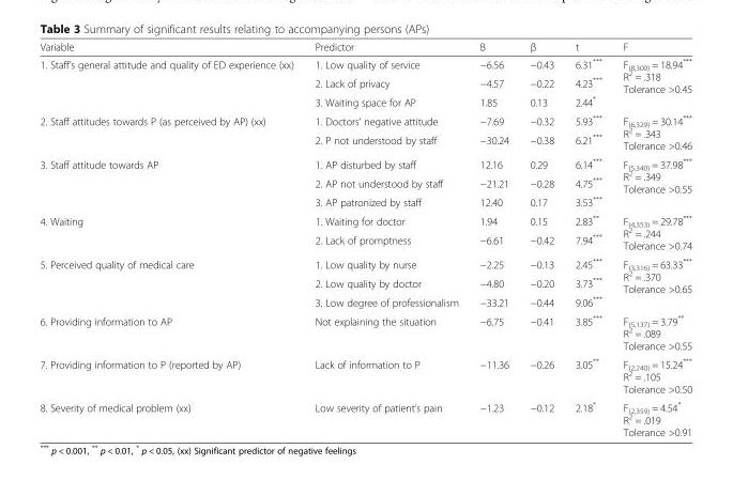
<table><thead><tr><td>Variable</td><td>Predictor</td><td>B</td><td>β</td><td>t</td><td>F</td></tr></thead><tbody><tr><td rowspan="3">1. Staff’s general attitude and quality of ED experience (xx)</td><td>1. Low quality of service</td><td>−6.56</td><td>−0.43</td><td>6.31***</td><td rowspan="3">F<sub>(8,300)</sub> = 18.94*** R<sup>2</sup> = .318 Tolerance &gt;0.45</td></tr><tr><td>2. Lack of privacy</td><td>−4.57</td><td>−0.22</td><td>4.23***</td></tr><tr><td>3. Waiting space for AP</td><td>1.85</td><td>0.13</td><td>2.44*</td></tr><tr><td rowspan="2">2. Staff attitudes towards P (as perceived by AP) (xx)</td><td>1. Doctors’ negative attitude</td><td>−7.69</td><td>−0.32</td><td>5.93***</td><td rowspan="2">F<sub>(6,329)</sub> = 30.14*** R<sup>2</sup> = .343 Tolerance &gt;0.46</td></tr><tr><td>2. P not understood by staff</td><td>−30.24</td><td>−0.38</td><td>6.21***</td></tr><tr><td rowspan="3">3. Staff attitude towards AP</td><td>1. AP disturbed by staff</td><td>12.16</td><td>0.29</td><td>6.14***</td><td rowspan="3">F<sub>(5,340)</sub> = 37.98*** R<sup>2</sup> = .349 Tolerance &gt;0.55</td></tr><tr><td>2. AP not understood by staff</td><td>−21.21</td><td>−0.28</td><td>4.75***</td></tr><tr><td>3. AP patronized by staff</td><td>12.40</td><td>0.17</td><td>3.53***</td></tr><tr><td rowspan="2">4. Waiting</td><td>1. Waiting for doctor</td><td>1.94</td><td>0.15</td><td>2.83**</td><td rowspan="2">F<sub>(4,353)</sub> = 29.78*** R<sup>2</sup> = .244 Tolerance &gt;0.74</td></tr><tr><td>2. Lack of promptness</td><td>−6.61</td><td>−0.42</td><td>7.94***</td></tr><tr><td rowspan="3">5. Perceived quality of medical care</td><td>1. Low quality by nurse</td><td>−2.25</td><td>−0.13</td><td>2.45***</td><td rowspan="3">F<sub>(3,316)</sub> = 63.33*** R<sup>2</sup> = .370 Tolerance &gt;0.65</td></tr><tr><td>2. Low quality by doctor</td><td>−4.80</td><td>−0.20</td><td>3.73***</td></tr><tr><td>3. Low degree of professionalism</td><td>−33.21</td><td>−0.44</td><td>9.06***</td></tr><tr><td>6. Providing information to AP</td><td>Not explaining the situation</td><td>−6.75</td><td>−0.41</td><td>3.85***</td><td>F<sub>(5,137)</sub> = 3.79** R<sup>2</sup> = .089 Tolerance &gt;0.55</td></tr><tr><td>7. Providing information to P (reported by AP)</td><td>Lack of information to P</td><td>−11.36</td><td>−0.26</td><td>3.05**</td><td>F<sub>(2,240)</sub> = 15.24*** R<sup>2</sup> = .105 Tolerance &gt;0.50</td></tr><tr><td>8. Severity of medical problem (xx)</td><td>Low severity of patient’s pain</td><td>−1.23</td><td>−0.12</td><td>2.18*</td><td>F<sub>(2,359)</sub> = 4.54* R<sup>2</sup> = .019 Tolerance &gt;0.91</td></tr></tbody></table>